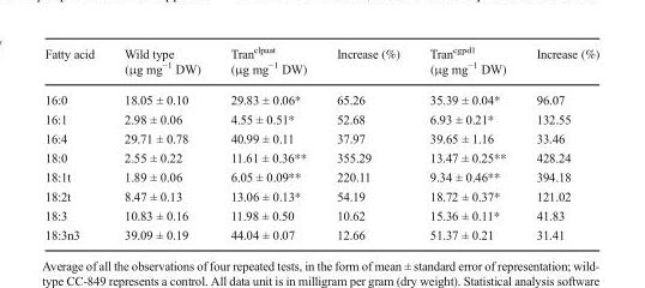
<table><thead><tr><td>Fatty acid</td><td>Wild type (μg mg<sup>−1</sup> DW)</td><td>Tran<sup>clpaat</sup> (μg mg<sup>−1</sup> DW)</td><td>Increase (%)</td><td>Tran<sup>cgpd1</sup> (μg mg<sup>−1</sup> DW)</td><td>Increase (%)</td></tr></thead><tbody><tr><td>16:0</td><td>18.05 ± 0.10</td><td>29.83 ± 0.06*</td><td>65.26</td><td>35.39 ± 0.04*</td><td>96.07</td></tr><tr><td>16:1</td><td>2.98 ± 0.06</td><td>4.55 ± 0.51*</td><td>52.68</td><td>6.93 ± 0.21*</td><td>132.55</td></tr><tr><td>16:4</td><td>29.71 ± 0.78</td><td>40.99 ± 0.11</td><td>37.97</td><td>39.65 ± 1.16</td><td>33.46</td></tr><tr><td>18:0</td><td>2.55 ± 0.22</td><td>11.61 ± 0.36**</td><td>355.29</td><td>13.47 ± 0.25**</td><td>428.24</td></tr><tr><td>18:1t</td><td>1.89 ± 0.06</td><td>6.05 ± 0.09**</td><td>220.11</td><td>9.34 ± 0.46**</td><td>394.18</td></tr><tr><td>18:2t</td><td>8.47 ± 0.13</td><td>13.06 ± 0.13*</td><td>54.19</td><td>18.72 ± 0.37*</td><td>121.02</td></tr><tr><td>18:3</td><td>10.83 ± 0.16</td><td>11.98 ± 0.50</td><td>10.62</td><td>15.36 ± 0.11*</td><td>41.83</td></tr><tr><td>18:3n3</td><td>39.09 ± 0.19</td><td>44.04 ± 0.07</td><td>12.66</td><td>51.37 ± 0.21</td><td>31.41</td></tr></tbody></table>